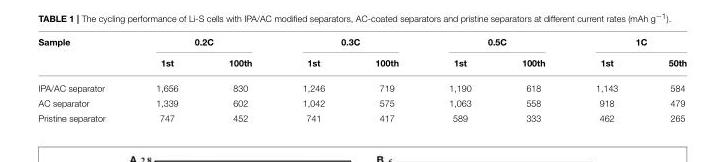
<table><thead><tr><td rowspan="2">Sample</td><td colspan="2">0.2C</td><td colspan="2">0.3C</td><td colspan="2">0.5C</td><td colspan="2">1C</td></tr><tr><td>1st</td><td>100th</td><td>1st</td><td>100th</td><td>1st</td><td>100th</td><td>1st</td><td>50th</td></tr></thead><tbody><tr><td>IPA/AC separator</td><td>1,656</td><td>830</td><td>1,246</td><td>719</td><td>1,190</td><td>618</td><td>1,143</td><td>584</td></tr><tr><td>AC separator</td><td>1,339</td><td>602</td><td>1,042</td><td>575</td><td>1,063</td><td>558</td><td>918</td><td>479</td></tr><tr><td>Pristine separator</td><td>747</td><td>452</td><td>741</td><td>417</td><td>589</td><td>333</td><td>462</td><td>265</td></tr></tbody></table>